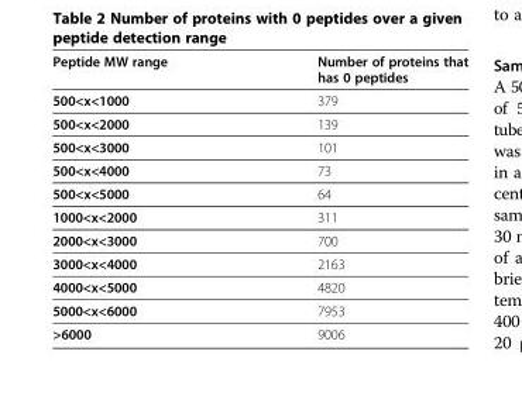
<table><thead><tr><td>Peptide MW range</td><td>Number of proteins that has 0 peptides</td></tr></thead><tbody><tr><td>500&lt;x&lt;1000</td><td>379</td></tr><tr><td>500&lt;x&lt;2000</td><td>139</td></tr><tr><td>500&lt;x&lt;3000</td><td>101</td></tr><tr><td>500&lt;x&lt;4000</td><td>73</td></tr><tr><td>500&lt;x&lt;5000</td><td>64</td></tr><tr><td>1000&lt;x&lt;2000</td><td>311</td></tr><tr><td>2000&lt;x&lt;3000</td><td>700</td></tr><tr><td>3000&lt;x&lt;4000</td><td>2163</td></tr><tr><td>4000&lt;x&lt;5000</td><td>4820</td></tr><tr><td>5000&lt;x&lt;6000</td><td>7953</td></tr><tr><td>&gt;6000</td><td>9006</td></tr></tbody></table>